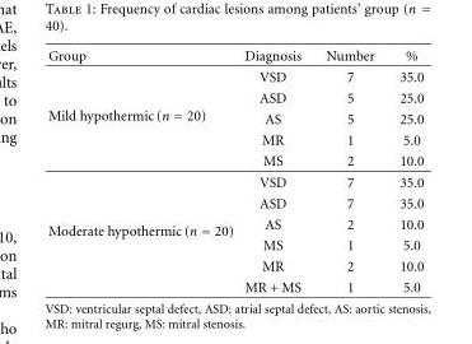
<table><thead><tr><td>Group</td><td>Diagnosis</td><td>Number</td><td>%</td></tr></thead><tbody><tr><td rowspan="5">Mild hypothermic (n = 20)</td><td>VSD</td><td>7</td><td>35.0</td></tr><tr><td>ASD</td><td>5</td><td>25.0</td></tr><tr><td>AS</td><td>5</td><td>25.0</td></tr><tr><td>MR</td><td>1</td><td>5.0</td></tr><tr><td>MS</td><td>2</td><td>10.0</td></tr><tr><td rowspan="6">Moderate hypothermic (n = 20)</td><td>VSD</td><td>7</td><td>35.0</td></tr><tr><td>ASD</td><td>7</td><td>35.0</td></tr><tr><td>AS</td><td>2</td><td>10.0</td></tr><tr><td>MS</td><td>1</td><td>5.0</td></tr><tr><td>MR</td><td>2</td><td>10.0</td></tr><tr><td>MR + MS</td><td>1</td><td>5.0</td></tr></tbody></table>